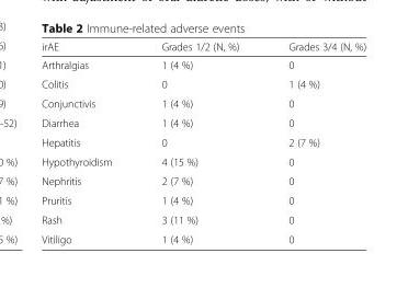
<table><thead><tr><td>irAE</td><td>Grades 1/2 (N, %)</td><td>Grades 3/4 (N, %)</td></tr></thead><tbody><tr><td>Arthralgias</td><td>1 (4 %)</td><td>0</td></tr><tr><td>Colitis</td><td>0</td><td>1 (4 %)</td></tr><tr><td>Conjunctivis</td><td>1 (4 %)</td><td>0</td></tr><tr><td>Diarrhea</td><td>1 (4 %)</td><td>0</td></tr><tr><td>Hepatitis</td><td>0</td><td>2 (7 %)</td></tr><tr><td>Hypothyroidism</td><td>4 (15 %)</td><td>0</td></tr><tr><td>Nephritis</td><td>2 (7 %)</td><td>0</td></tr><tr><td>Pruritis</td><td>1 (4 %)</td><td>0</td></tr><tr><td>Rash</td><td>3 (11 %)</td><td>0</td></tr><tr><td>Vitiligo</td><td>1 (4 %)</td><td>0</td></tr></tbody></table>